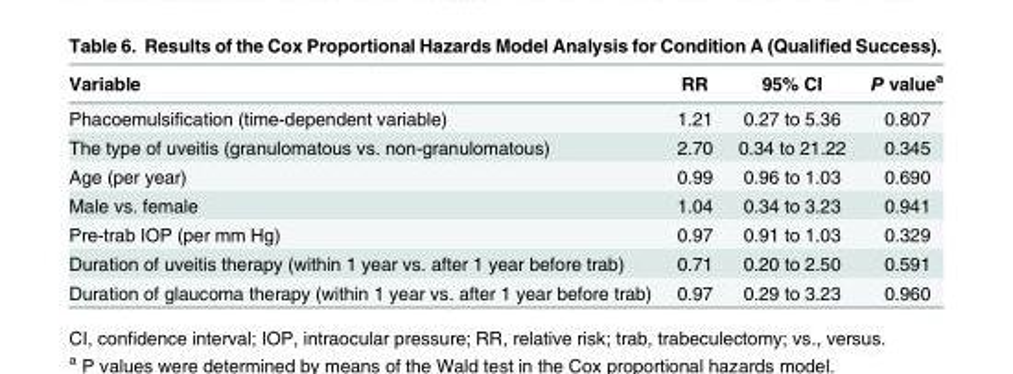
<table><thead><tr><td>Variable</td><td>RR</td><td>95% CI</td><td>P value<sup>a</sup></td></tr></thead><tbody><tr><td>Phacoemulsification (time-dependent variable)</td><td>1.21</td><td>0.27 to 5.36</td><td>0.807</td></tr><tr><td>The type of uveitis (granulomatous vs. non-granulomatous)</td><td>2.70</td><td>0.34 to 21.22</td><td>0.345</td></tr><tr><td>Age (per year)</td><td>0.99</td><td>0.96 to 1.03</td><td>0.690</td></tr><tr><td>Male vs. female</td><td>1.04</td><td>0.34 to 3.23</td><td>0.941</td></tr><tr><td>Pre-trab IOP (per mm Hg)</td><td>0.97</td><td>0.91 to 1.03</td><td>0.329</td></tr><tr><td>Duration of uveitis therapy (within 1 year vs. after 1 year before trab)</td><td>0.71</td><td>0.20 to 2.50</td><td>0.591</td></tr><tr><td>Duration of glaucoma therapy (within 1 year vs. after 1 year before trab)</td><td>0.97</td><td>0.29 to 3.23</td><td>0.960</td></tr></tbody></table>